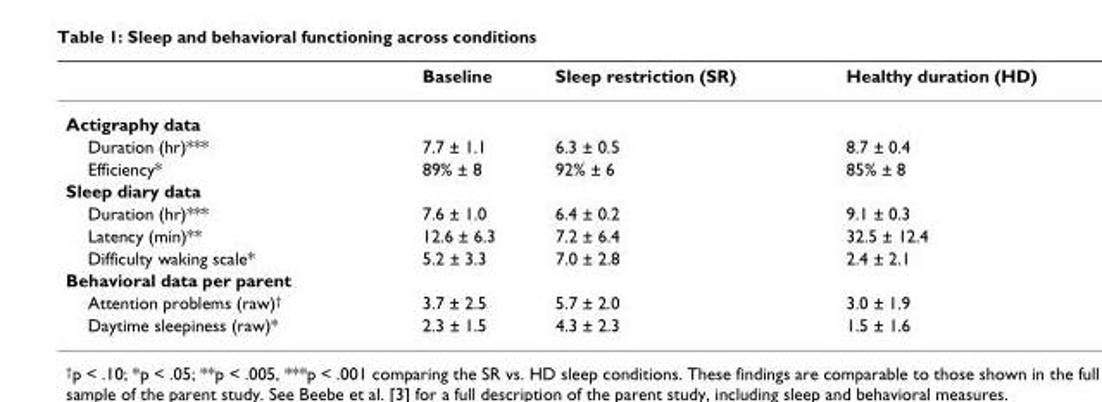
<table><thead><tr><td></td><td>Baseline</td><td>Sleep restriction (SR)</td><td>Healthy duration (HD)</td></tr></thead><tbody><tr><td colspan="4">Actigraphy data</td></tr><tr><td>Duration (hr)***</td><td>7.7 ± 1.1</td><td>6.3 ± 0.5</td><td>8.7 ± 0.4</td></tr><tr><td>Efficiency*</td><td>89% ± 8</td><td>92% ± 6</td><td>85% ± 8</td></tr><tr><td colspan="4">Sleep diary data</td></tr><tr><td>Duration (hr)***</td><td>7.6 ± 1.0</td><td>6.4 ± 0.2</td><td>9.1 ± 0.3</td></tr><tr><td>Latency (min)**</td><td>12.6 ± 6.3</td><td>7.2 ± 6.4</td><td>32.5 ± 12.4</td></tr><tr><td>Difficulty waking scale*</td><td>5.2 ± 3.3</td><td>7.0 ± 2.8</td><td>2.4 ± 2.1</td></tr><tr><td colspan="4">Behavioral data per parent</td></tr><tr><td>Attention problems (raw)<sup>†</sup></td><td>3.7 ± 2.5</td><td>5.7 ± 2.0</td><td>3.0 ± 1.9</td></tr><tr><td>Daytime sleepiness (raw)*</td><td>2.3 ± 1.5</td><td>4.3 ± 2.3</td><td>1.5 ± 1.6</td></tr></tbody></table>